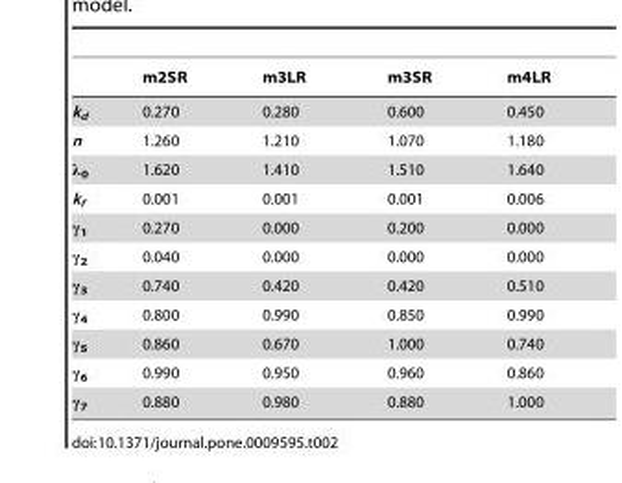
<table><thead><tr><td></td><td>m2SR</td><td>m3LR</td><td>m3SR</td><td>m4LR</td></tr></thead><tbody><tr><td>k<sub>d</sub></td><td>0.270</td><td>0.280</td><td>0.600</td><td>0.450</td></tr><tr><td>n</td><td>1.260</td><td>1.210</td><td>1.070</td><td>1.180</td></tr><tr><td>λ<sub>0</sub></td><td>1.620</td><td>1.410</td><td>1.510</td><td>1.640</td></tr><tr><td>k<sub>f</sub></td><td>0.001</td><td>0.001</td><td>0.001</td><td>0.006</td></tr><tr><td>γ<sub>1</sub></td><td>0.270</td><td>0.000</td><td>0.200</td><td>0.000</td></tr><tr><td>γ<sub>2</sub></td><td>0.040</td><td>0.000</td><td>0.000</td><td>0.000</td></tr><tr><td>γ<sub>3</sub></td><td>0.740</td><td>0.420</td><td>0.420</td><td>0.510</td></tr><tr><td>γ<sub>4</sub></td><td>0.800</td><td>0.990</td><td>0.850</td><td>0.990</td></tr><tr><td>γ<sub>5</sub></td><td>0.860</td><td>0.670</td><td>1.000</td><td>0.740</td></tr><tr><td>γ<sub>6</sub></td><td>0.990</td><td>0.950</td><td>0.960</td><td>0.860</td></tr><tr><td>γ<sub>7</sub></td><td>0.880</td><td>0.980</td><td>0.880</td><td>1.000</td></tr></tbody></table>